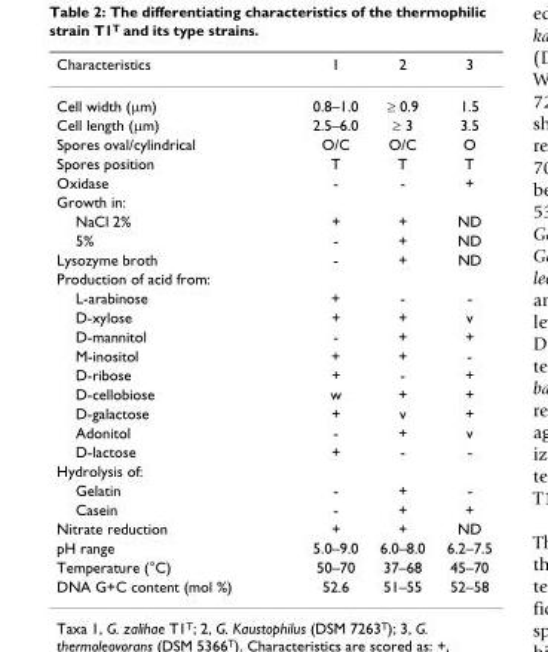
<table><thead><tr><td>Characteristics</td><td>1</td><td>2</td><td>3</td></tr></thead><tbody><tr><td>Cell width (μm)</td><td>0.8–1.0</td><td>≥ 0.9</td><td>1.5</td></tr><tr><td>Cell length (μm)</td><td>2.5–6.0</td><td>≥ 3</td><td>3.5</td></tr><tr><td>Spores oval/cylindrical</td><td>O/C</td><td>O/C</td><td>O</td></tr><tr><td>Spores position</td><td>T</td><td>T</td><td>T</td></tr><tr><td>Oxidase</td><td>-</td><td>-</td><td>+</td></tr><tr><td colspan="4">Growth in:</td></tr><tr><td>NaCl 2%</td><td>+</td><td>+</td><td>ND</td></tr><tr><td>5%</td><td>-</td><td>+</td><td>ND</td></tr><tr><td>Lysozyme broth</td><td>-</td><td>+</td><td>ND</td></tr><tr><td colspan="4">Production of acid from:</td></tr><tr><td>L-arabinose</td><td>+</td><td>-</td><td>-</td></tr><tr><td>D-xylose</td><td>+</td><td>+</td><td>v</td></tr><tr><td>D-mannitol</td><td>-</td><td>+</td><td>+</td></tr><tr><td>M-inositol</td><td>+</td><td>+</td><td>-</td></tr><tr><td>D-ribose</td><td>+</td><td>-</td><td>+</td></tr><tr><td>D-cellobiose</td><td>w</td><td>+</td><td>+</td></tr><tr><td>D-galactose</td><td>+</td><td>v</td><td>+</td></tr><tr><td>Adonitol</td><td>-</td><td>+</td><td>v</td></tr><tr><td>D-lactose</td><td>+</td><td>-</td><td>-</td></tr><tr><td colspan="4">Hydrolysis of:</td></tr><tr><td>Gelatin</td><td>-</td><td>+</td><td>-</td></tr><tr><td>Casein</td><td>-</td><td>+</td><td>+</td></tr><tr><td>Nitrate reduction</td><td>+</td><td>+</td><td>ND</td></tr><tr><td>pH range</td><td>5.0–9.0</td><td>6.0–8.0</td><td>6.2–7.5</td></tr><tr><td>Temperature (°C)</td><td>50–70</td><td>37–68</td><td>45–70</td></tr><tr><td>DNA G+C content (mol %)</td><td>52.6</td><td>51–55</td><td>52–58</td></tr></tbody></table>